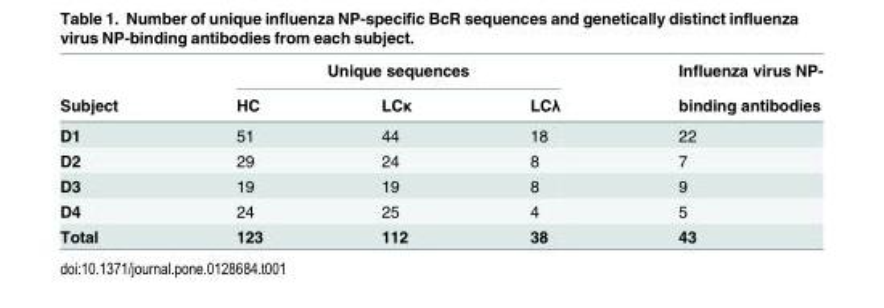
<table><thead><tr><td rowspan="2">Subject</td><td colspan="3">Unique sequences</td><td rowspan="2">Influenza virus NP- binding antibodies</td></tr><tr><td>HC</td><td>LCκ</td><td>LCλ</td></tr></thead><tbody><tr><td>D1</td><td>51</td><td>44</td><td>18</td><td>22</td></tr><tr><td>D2</td><td>29</td><td>24</td><td>8</td><td>7</td></tr><tr><td>D3</td><td>19</td><td>19</td><td>8</td><td>9</td></tr><tr><td>D4</td><td>24</td><td>25</td><td>4</td><td>5</td></tr><tr><td>Total</td><td>123</td><td>112</td><td>38</td><td>43</td></tr></tbody></table>